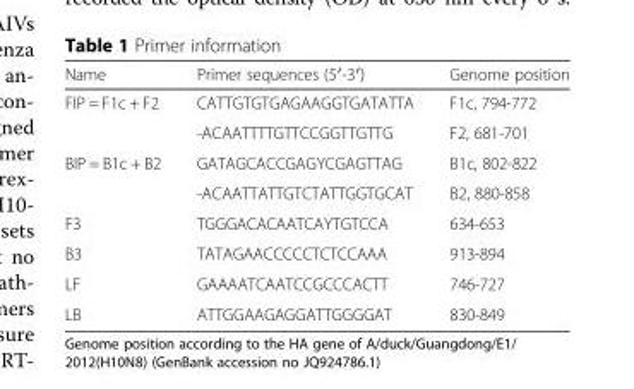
<table><thead><tr><td>Name</td><td>Primer sequences (5′-3′)</td><td>Genome position</td></tr></thead><tbody><tr><td rowspan="2">FIP = F1c + F2</td><td>CATTGTGTGAGAAGGTGATATTA</td><td>F1c, 794-772</td></tr><tr><td>-ACAATTTTGTTCCGGTTGTTG</td><td>F2, 681-701</td></tr><tr><td rowspan="2">BIP = B1c + B2</td><td>GATAGCACCGAGYCGAGTTAG</td><td>B1c, 802-822</td></tr><tr><td>-ACAATTATTGTCTATTGGTGCAT</td><td>B2, 880-858</td></tr><tr><td>F3</td><td>TGGGACACAATCAYTGTCCA</td><td>634-653</td></tr><tr><td>B3</td><td>TATAGAACCCCCTCTCCAAA</td><td>913-894</td></tr><tr><td>LF</td><td>GAAAATCAATCCGCCCACTT</td><td>746-727</td></tr><tr><td>LB</td><td>ATTGGAAGAGGATTGGGGAT</td><td>830-849</td></tr></tbody></table>